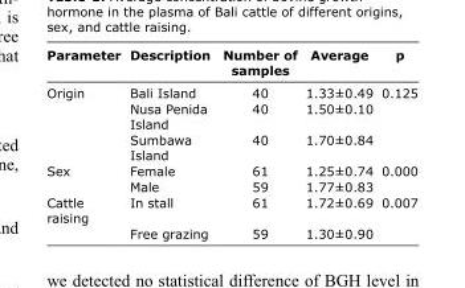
<table><thead><tr><td>Parameter</td><td>Description</td><td>Number of samples</td><td>Average</td><td>p</td></tr></thead><tbody><tr><td rowspan="3">Origin</td><td>Bali Island</td><td>40</td><td>1.33±0.49</td><td>0.125</td></tr><tr><td>Nusa Penida Island</td><td>40</td><td>1.50±0.10</td><td></td></tr><tr><td>Sumbawa Island</td><td>40</td><td>1.70±0.84</td><td></td></tr><tr><td rowspan="2">Sex</td><td>Female</td><td>61</td><td>1.25±0.74</td><td>0.000</td></tr><tr><td>Male</td><td>59</td><td>1.77±0.83</td><td></td></tr><tr><td rowspan="2">Cattle raising</td><td>In stall</td><td>61</td><td>1.72±0.69</td><td>0.007</td></tr><tr><td>Free grazing</td><td>59</td><td>1.30±0.90</td><td></td></tr></tbody></table>